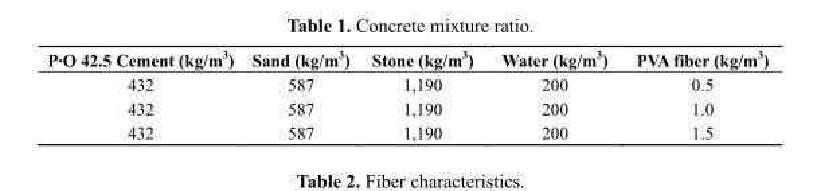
<table><thead><tr><td>P·O 42.5 Cement (kg/m<sup>3</sup>)</td><td>Sand (kg/m<sup>3</sup>)</td><td>Stone (kg/m<sup>3</sup>)</td><td>Water (kg/m<sup>3</sup>)</td><td>PVA fiber (kg/m<sup>3</sup>)</td></tr></thead><tbody><tr><td>432</td><td>587</td><td>1,190</td><td>200</td><td>0.5</td></tr><tr><td>432</td><td>587</td><td>1,190</td><td>200</td><td>1.0</td></tr><tr><td>432</td><td>587</td><td>1,190</td><td>200</td><td>1.5</td></tr></tbody></table>